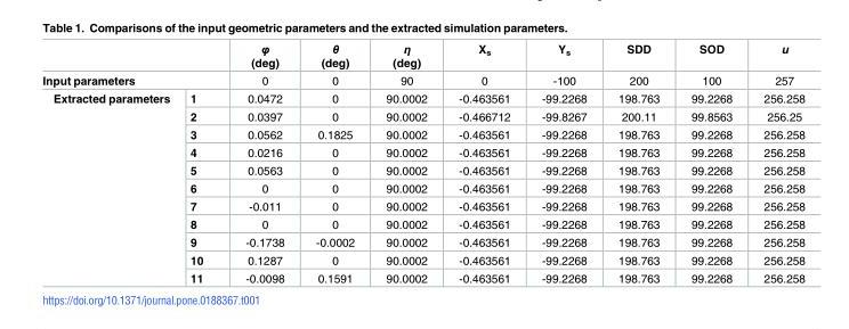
<table><thead><tr><td></td><td></td><td>φ (deg)</td><td>θ (deg)</td><td>η (deg)</td><td>X<sub>s</sub></td><td>Y<sub>s</sub></td><td>SDD</td><td>SOD</td><td>u</td></tr></thead><tbody><tr><td colspan="2">Input parameters</td><td>0</td><td>0</td><td>90</td><td>0</td><td>-100</td><td>200</td><td>100</td><td>257</td></tr><tr><td rowspan="11">Extracted parameters</td><td>1</td><td>0.0472</td><td>0</td><td>90.0002</td><td>-0.463561</td><td>-99.2268</td><td>198.763</td><td>99.2268</td><td>256.258</td></tr><tr><td>2</td><td>0.0397</td><td>0</td><td>90.0002</td><td>-0.466712</td><td>-99.8267</td><td>200.11</td><td>99.8563</td><td>256.25</td></tr><tr><td>3</td><td>0.0562</td><td>0.1825</td><td>90.0002</td><td>-0.463561</td><td>-99.2268</td><td>198.763</td><td>99.2268</td><td>256.258</td></tr><tr><td>4</td><td>0.0216</td><td>0</td><td>90.0002</td><td>-0.463561</td><td>-99.2268</td><td>198.763</td><td>99.2268</td><td>256.258</td></tr><tr><td>5</td><td>0.0563</td><td>0</td><td>90.0002</td><td>-0.463561</td><td>-99.2268</td><td>198.763</td><td>99.2268</td><td>256.258</td></tr><tr><td>6</td><td>0</td><td>0</td><td>90.0002</td><td>-0.463561</td><td>-99.2268</td><td>198.763</td><td>99.2268</td><td>256.258</td></tr><tr><td>7</td><td>-0.011</td><td>0</td><td>90.0002</td><td>-0.463561</td><td>-99.2268</td><td>198.763</td><td>99.2268</td><td>256.258</td></tr><tr><td>8</td><td>0</td><td>0</td><td>90.0002</td><td>-0.463561</td><td>-99.2268</td><td>198.763</td><td>99.2268</td><td>256.258</td></tr><tr><td>9</td><td>-0.1738</td><td>-0.0002</td><td>90.0002</td><td>-0.463561</td><td>-99.2268</td><td>198.763</td><td>99.2268</td><td>256.258</td></tr><tr><td>10</td><td>0.1287</td><td>0</td><td>90.0002</td><td>-0.463561</td><td>-99.2268</td><td>198.763</td><td>99.2268</td><td>256.258</td></tr><tr><td>11</td><td>-0.0098</td><td>0.1591</td><td>90.0002</td><td>-0.463561</td><td>-99.2268</td><td>198.763</td><td>99.2268</td><td>256.258</td></tr></tbody></table>